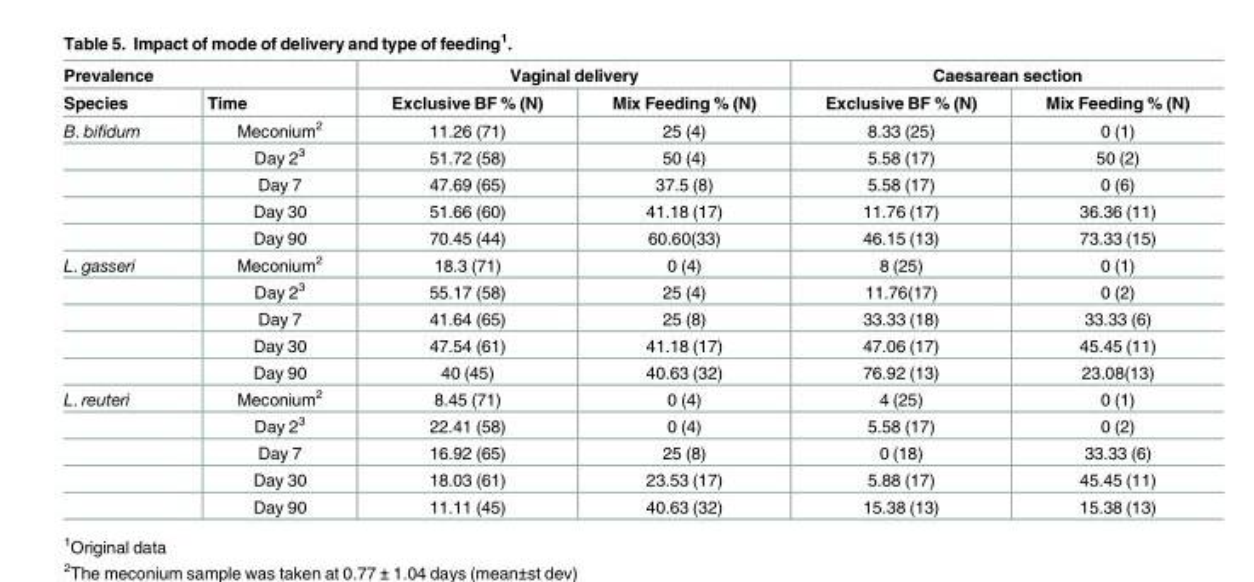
<table><thead><tr><td colspan="2">Prevalence</td><td colspan="2">Vaginal delivery</td><td colspan="2">Caesarean section</td></tr><tr><td>Species</td><td>Time</td><td>Exclusive BF % (N)</td><td>Mix Feeding % (N)</td><td>Exclusive BF % (N)</td><td>Mix Feeding % (N)</td></tr></thead><tbody><tr><td rowspan="5">B. bifidum</td><td>Meconium<sup>2</sup></td><td>11.26 (71)</td><td>25 (4)</td><td>8.33 (25)</td><td>0 (1)</td></tr><tr><td>Day 2<sup>3</sup></td><td>51.72 (58)</td><td>50 (4)</td><td>5.58 (17)</td><td>50 (2)</td></tr><tr><td>Day 7</td><td>47.69 (65)</td><td>37.5 (8)</td><td>5.58 (17)</td><td>0 (6)</td></tr><tr><td>Day 30</td><td>51.66 (60)</td><td>41.18 (17)</td><td>11.76 (17)</td><td>36.36 (11)</td></tr><tr><td>Day 90</td><td>70.45 (44)</td><td>60.60(33)</td><td>46.15 (13)</td><td>73.33 (15)</td></tr><tr><td rowspan="5">L. gasseri</td><td>Meconium<sup>2</sup></td><td>18.3 (71)</td><td>0 (4)</td><td>8 (25)</td><td>0 (1)</td></tr><tr><td>Day 2<sup>3</sup></td><td>55.17 (58)</td><td>25 (4)</td><td>11.76(17)</td><td>0 (2)</td></tr><tr><td>Day 7</td><td>41.64 (65)</td><td>25 (8)</td><td>33.33 (18)</td><td>33.33 (6)</td></tr><tr><td>Day 30</td><td>47.54 (61)</td><td>41.18 (17)</td><td>47.06 (17)</td><td>45.45 (11)</td></tr><tr><td>Day 90</td><td>40 (45)</td><td>40.63 (32)</td><td>76.92 (13)</td><td>23.08(13)</td></tr><tr><td rowspan="5">L. reuteri</td><td>Meconium<sup>2</sup></td><td>8.45 (71)</td><td>0 (4)</td><td>4 (25)</td><td>0 (1)</td></tr><tr><td>Day 2<sup>3</sup></td><td>22.41 (58)</td><td>0 (4)</td><td>5.58 (17)</td><td>0 (2)</td></tr><tr><td>Day 7</td><td>16.92 (65)</td><td>25 (8)</td><td>0 (18)</td><td>33.33 (6)</td></tr><tr><td>Day 30</td><td>18.03 (61)</td><td>23.53 (17)</td><td>5.88 (17)</td><td>45.45 (11)</td></tr><tr><td>Day 90</td><td>11.11 (45)</td><td>40.63 (32)</td><td>15.38 (13)</td><td>15.38 (13)</td></tr></tbody></table>